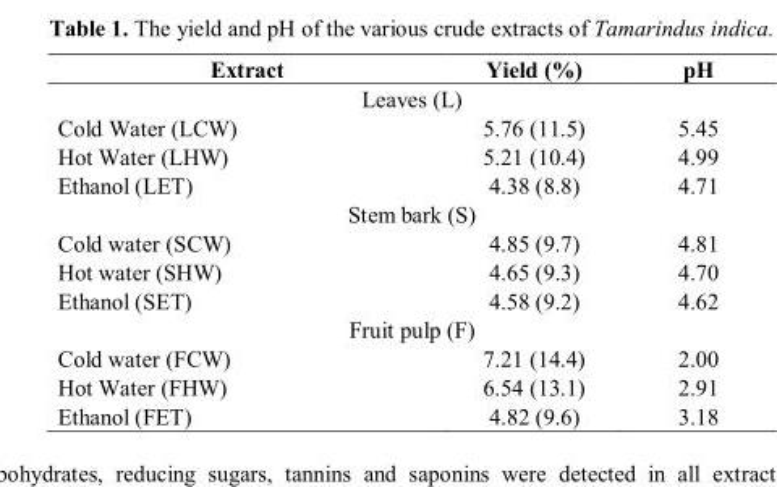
<table><thead><tr><td>Extract</td><td>Yield (%)</td><td>pH</td></tr></thead><tbody><tr><td colspan="3">Leaves (L)</td></tr><tr><td>Cold Water (LCW)</td><td>5.76 (11.5)</td><td>5.45</td></tr><tr><td>Hot Water (LHW)</td><td>5.21 (10.4)</td><td>4.99</td></tr><tr><td>Ethanol (LET)</td><td>4.38 (8.8)</td><td>4.71</td></tr><tr><td colspan="3">Stem bark (S)</td></tr><tr><td>Cold water (SCW)</td><td>4.85 (9.7)</td><td>4.81</td></tr><tr><td>Hot water (SHW)</td><td>4.65 (9.3)</td><td>4.70</td></tr><tr><td>Ethanol (SET)</td><td>4.58 (9.2)</td><td>4.62</td></tr><tr><td colspan="3">Fruit pulp (F)</td></tr><tr><td>Cold water (FCW)</td><td>7.21 (14.4)</td><td>2.00</td></tr><tr><td>Hot Water (FHW)</td><td>6.54 (13.1)</td><td>2.91</td></tr><tr><td>Ethanol (FET)</td><td>4.82 (9.6)</td><td>3.18</td></tr></tbody></table>